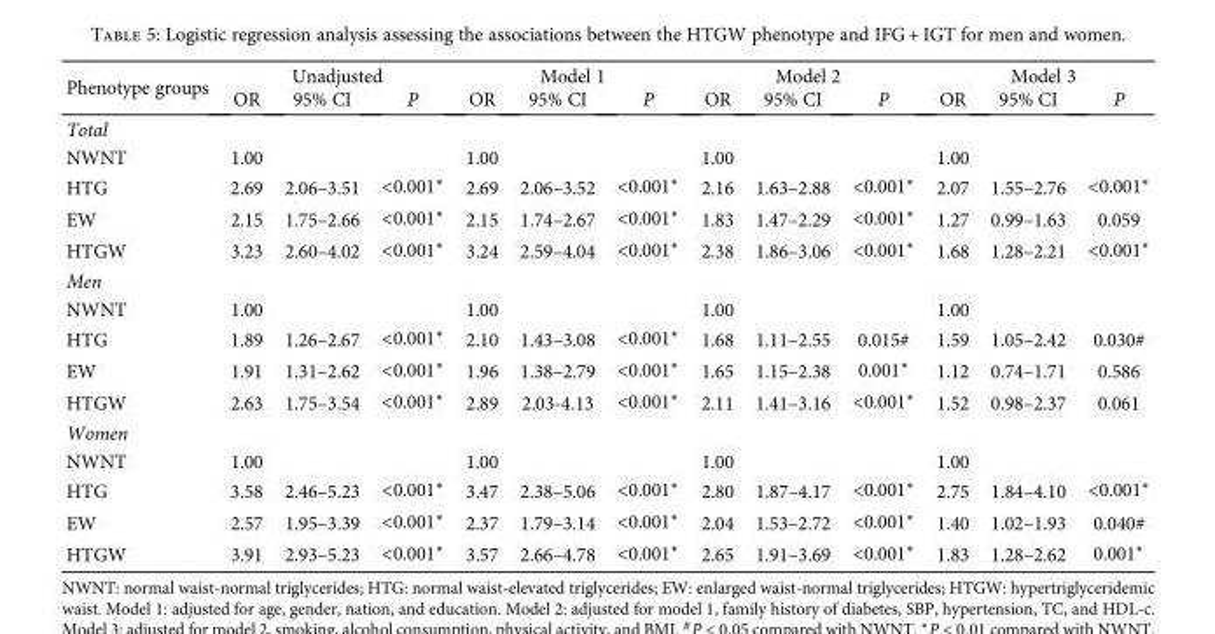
<table><thead><tr><td rowspan="2">Phenotype groups</td><td colspan="3">Unadjusted</td><td colspan="3">Model 1</td><td colspan="3">Model 2</td><td colspan="3">Model 3</td></tr><tr><td>OR</td><td>95% CI</td><td>P</td><td>OR</td><td>95% CI</td><td>P</td><td>OR</td><td>95% CI</td><td>P</td><td>OR</td><td>95% CI</td><td>P</td></tr></thead><tbody><tr><td colspan="13">Total</td></tr><tr><td>NWNT</td><td>1.00</td><td></td><td></td><td>1.00</td><td></td><td></td><td>1.00</td><td></td><td></td><td>1.00</td><td></td><td></td></tr><tr><td>HTG</td><td>2.69</td><td>2.06–3.51</td><td>&lt;0.001∗</td><td>2.69</td><td>2.06–3.52</td><td>&lt;0.001∗</td><td>2.16</td><td>1.63–2.88</td><td>&lt;0.001∗</td><td>2.07</td><td>1.55–2.76</td><td>&lt;0.001∗</td></tr><tr><td>EW</td><td>2.15</td><td>1.75–2.66</td><td>&lt;0.001∗</td><td>2.15</td><td>1.74–2.67</td><td>&lt;0.001∗</td><td>1.83</td><td>1.47–2.29</td><td>&lt;0.001∗</td><td>1.27</td><td>0.99–1.63</td><td>0.059</td></tr><tr><td>HTGW</td><td>3.23</td><td>2.60–4.02</td><td>&lt;0.001∗</td><td>3.24</td><td>2.59–4.04</td><td>&lt;0.001∗</td><td>2.38</td><td>1.86–3.06</td><td>&lt;0.001∗</td><td>1.68</td><td>1.28–2.21</td><td>&lt;0.001∗</td></tr><tr><td colspan="13">Men</td></tr><tr><td>NWNT</td><td>1.00</td><td></td><td></td><td>1.00</td><td></td><td></td><td>1.00</td><td></td><td></td><td>1.00</td><td></td><td></td></tr><tr><td>HTG</td><td>1.89</td><td>1.26–2.67</td><td>&lt;0.001∗</td><td>2.10</td><td>1.43–3.08</td><td>&lt;0.001∗</td><td>1.68</td><td>1.11–2.55</td><td>0.015#</td><td>1.59</td><td>1.05–2.42</td><td>0.030#</td></tr><tr><td>EW</td><td>1.91</td><td>1.31–2.62</td><td>&lt;0.001∗</td><td>1.96</td><td>1.38–2.79</td><td>&lt;0.001∗</td><td>1.65</td><td>1.15–2.38</td><td>0.001∗</td><td>1.12</td><td>0.74–1.71</td><td>0.586</td></tr><tr><td>HTGW</td><td>2.63</td><td>1.75–3.54</td><td>&lt;0.001∗</td><td>2.89</td><td>2.03-4.13</td><td>&lt;0.001∗</td><td>2.11</td><td>1.41–3.16</td><td>&lt;0.001∗</td><td>1.52</td><td>0.98–2.37</td><td>0.061</td></tr><tr><td colspan="13">Women</td></tr><tr><td>NWNT</td><td>1.00</td><td></td><td></td><td>1.00</td><td></td><td></td><td>1.00</td><td></td><td></td><td>1.00</td><td></td><td></td></tr><tr><td>HTG</td><td>3.58</td><td>2.46–5.23</td><td>&lt;0.001∗</td><td>3.47</td><td>2.38–5.06</td><td>&lt;0.001∗</td><td>2.80</td><td>1.87–4.17</td><td>&lt;0.001∗</td><td>2.75</td><td>1.84–4.10</td><td>&lt;0.001∗</td></tr><tr><td>EW</td><td>2.57</td><td>1.95–3.39</td><td>&lt;0.001∗</td><td>2.37</td><td>1.79–3.14</td><td>&lt;0.001∗</td><td>2.04</td><td>1.53–2.72</td><td>&lt;0.001∗</td><td>1.40</td><td>1.02–1.93</td><td>0.040#</td></tr><tr><td>HTGW</td><td>3.91</td><td>2.93–5.23</td><td>&lt;0.001∗</td><td>3.57</td><td>2.66–4.78</td><td>&lt;0.001∗</td><td>2.65</td><td>1.91–3.69</td><td>&lt;0.001∗</td><td>1.83</td><td>1.28–2.62</td><td>0.001∗</td></tr></tbody></table>